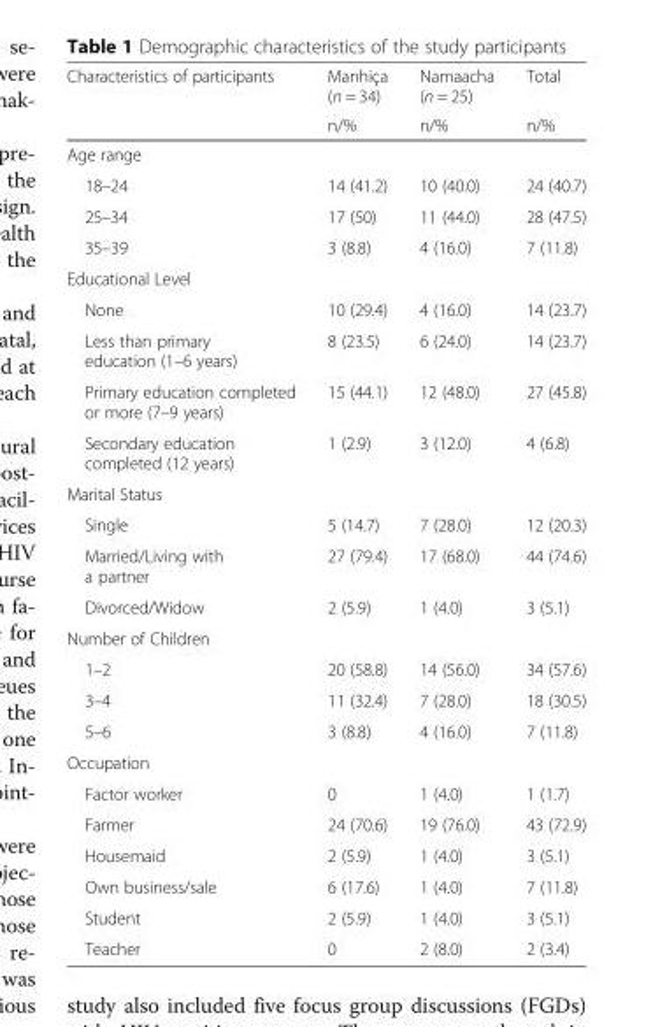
<table><thead><tr><td rowspan="2">Characteristics of participants</td><td rowspan="2">Manhiça (n = 34) n/%</td><td rowspan="2">Namaacha (n = 25) n/%</td><td rowspan="2">Total n/%</td></tr><tr></tr></thead><tbody><tr><td colspan="4">Age range</td></tr><tr><td>18–24</td><td>14 (41.2)</td><td>10 (40.0)</td><td>24 (40.7)</td></tr><tr><td>25–34</td><td>17 (50)</td><td>11 (44.0)</td><td>28 (47.5)</td></tr><tr><td>35–39</td><td>3 (8.8)</td><td>4 (16.0)</td><td>7 (11.8)</td></tr><tr><td colspan="4">Educational Level</td></tr><tr><td>None</td><td>10 (29.4)</td><td>4 (16.0)</td><td>14 (23.7)</td></tr><tr><td>Less than primary education (1–6 years)</td><td>8 (23.5)</td><td>6 (24.0)</td><td>14 (23.7)</td></tr><tr><td>Primary education completed or more (7–9 years)</td><td>15 (44.1)</td><td>12 (48.0)</td><td>27 (45.8)</td></tr><tr><td>Secondary education completed (12 years)</td><td>1 (2.9)</td><td>3 (12.0)</td><td>4 (6.8)</td></tr><tr><td colspan="4">Marital Status</td></tr><tr><td>Single</td><td>5 (14.7)</td><td>7 (28.0)</td><td>12 (20.3)</td></tr><tr><td>Married/Living with a partner</td><td>27 (79.4)</td><td>17 (68.0)</td><td>44 (74.6)</td></tr><tr><td>Divorced/Widow</td><td>2 (5.9)</td><td>1 (4.0)</td><td>3 (5.1)</td></tr><tr><td colspan="4">Number of Children</td></tr><tr><td>1–2</td><td>20 (58.8)</td><td>14 (56.0)</td><td>34 (57.6)</td></tr><tr><td>3–4</td><td>11 (32.4)</td><td>7 (28.0)</td><td>18 (30.5)</td></tr><tr><td>5–6</td><td>3 (8.8)</td><td>4 (16.0)</td><td>7 (11.8)</td></tr><tr><td colspan="4">Occupation</td></tr><tr><td>Factor worker</td><td>0</td><td>1 (4.0)</td><td>1 (1.7)</td></tr><tr><td>Farmer</td><td>24 (70.6)</td><td>19 (76.0)</td><td>43 (72.9)</td></tr><tr><td>Housemaid</td><td>2 (5.9)</td><td>1 (4.0)</td><td>3 (5.1)</td></tr><tr><td>Own business/sale</td><td>6 (17.6)</td><td>1 (4.0)</td><td>7 (11.8)</td></tr><tr><td>Student</td><td>2 (5.9)</td><td>1 (4.0)</td><td>3 (5.1)</td></tr><tr><td>Teacher</td><td>0</td><td>2 (8.0)</td><td>2 (3.4)</td></tr></tbody></table>